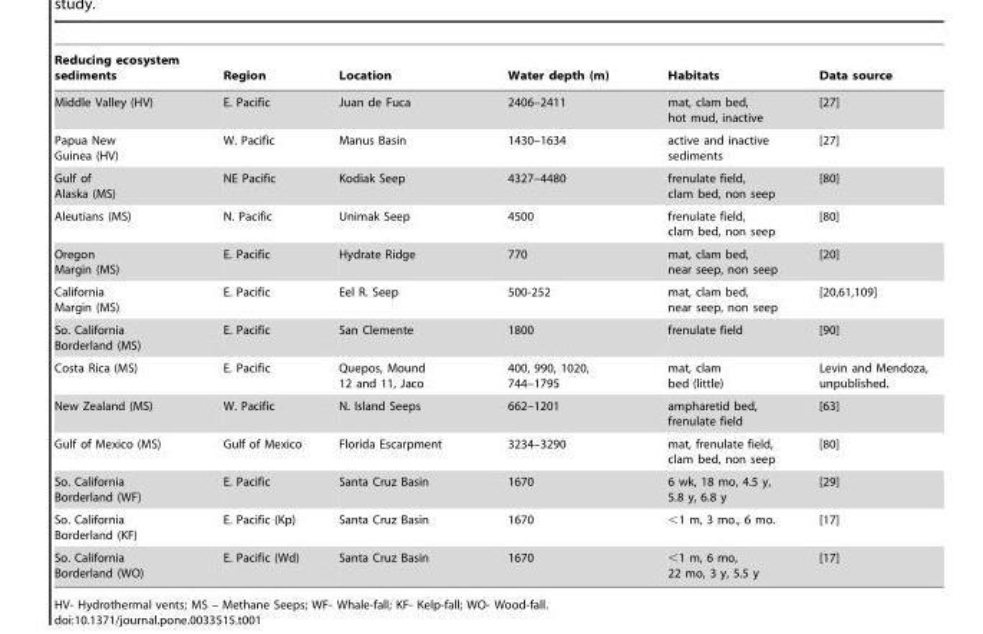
<table><thead><tr><td>Reducing ecosystem sediments</td><td>Region</td><td>Location</td><td>Water depth (m)</td><td>Habitats</td><td>Data source</td></tr></thead><tbody><tr><td>Middle Valley (HV)</td><td>E. Pacific</td><td>Juan de Fuca</td><td>2406–2411</td><td>mat, clam bed, hot mud, inactive</td><td>[27]</td></tr><tr><td>Papua New Guinea (HV)</td><td>W. Pacific</td><td>Manus Basin</td><td>1430–1634</td><td>active and inactive sediments</td><td>[27]</td></tr><tr><td>Gulf of Alaska (MS)</td><td>NE Pacific</td><td>Kodiak Seep</td><td>4327–4480</td><td>frenulate field, clam bed, non seep</td><td>[80]</td></tr><tr><td>Aleutians (MS)</td><td>N. Pacific</td><td>Unimak Seep</td><td>4500</td><td>frenulate field, clam bed, non seep</td><td>[80]</td></tr><tr><td>Oregon Margin (MS)</td><td>E. Pacific</td><td>Hydrate Ridge</td><td>770</td><td>mat, clam bed, near seep, non seep</td><td>[20]</td></tr><tr><td>California Margin (MS)</td><td>E. Pacific</td><td>Eel R. Seep</td><td>500-252</td><td>mat, clam bed, near seep, non seep</td><td>[20,61,109]</td></tr><tr><td>So. California Borderland (MS)</td><td>E. Pacific</td><td>San Clemente</td><td>1800</td><td>frenulate field</td><td>[90]</td></tr><tr><td>Costa Rica (MS)</td><td>E. Pacific</td><td>Quepos, Mound 12 and 11, Jaco</td><td>400, 990, 1020, 744–1795</td><td>mat, clam bed (little)</td><td>Levin and Mendoza, unpublished.</td></tr><tr><td>New Zealand (MS)</td><td>W. Pacific</td><td>N. Island Seeps</td><td>662–1201</td><td>ampharetid bed, frenulate field</td><td>[63]</td></tr><tr><td>Gulf of Mexico (MS)</td><td>Gulf of Mexico</td><td>Florida Escarpment</td><td>3234–3290</td><td>mat, frenulate field, clam bed, non seep</td><td>[80]</td></tr><tr><td>So. California Borderland (WF)</td><td>E. Pacific</td><td>Santa Cruz Basin</td><td>1670</td><td>6 wk, 18 mo, 4.5 y, 5.8 y, 6.8 y</td><td>[29]</td></tr><tr><td>So. California Borderland (KF)</td><td>E. Pacific (Kp)</td><td>Santa Cruz Basin</td><td>1670</td><td>&lt;1 m, 3 mo., 6 mo.</td><td>[17]</td></tr><tr><td>So. California Borderland (WO)</td><td>E. Pacific (Wd)</td><td>Santa Cruz Basin</td><td>1670</td><td>&lt;1 m, 6 mo, 22 mo, 3 y, 5.5 y</td><td>[17]</td></tr></tbody></table>